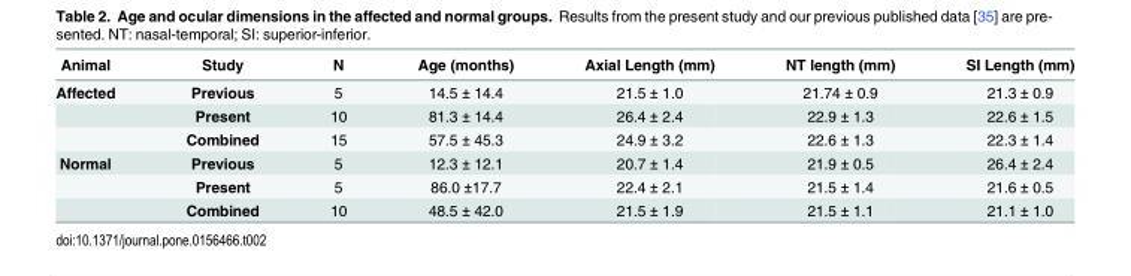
<table><thead><tr><td>Animal</td><td>Study</td><td>N</td><td>Age (months)</td><td>Axial Length (mm)</td><td>NT length (mm)</td><td>SI Length (mm)</td></tr></thead><tbody><tr><td rowspan="3">Affected</td><td>Previous</td><td>5</td><td>14.5 ± 14.4</td><td>21.5 ± 1.0</td><td>21.74 ± 0.9</td><td>21.3 ± 0.9</td></tr><tr><td>Present</td><td>10</td><td>81.3 ± 14.4</td><td>26.4 ± 2.4</td><td>22.9 ± 1.3</td><td>22.6 ± 1.5</td></tr><tr><td>Combined</td><td>15</td><td>57.5 ± 45.3</td><td>24.9 ± 3.2</td><td>22.6 ± 1.3</td><td>22.3 ± 1.4</td></tr><tr><td rowspan="3">Normal</td><td>Previous</td><td>5</td><td>12.3 ± 12.1</td><td>20.7 ± 1.4</td><td>21.9 ± 0.5</td><td>26.4 ± 2.4</td></tr><tr><td>Present</td><td>5</td><td>86.0 ±17.7</td><td>22.4 ± 2.1</td><td>21.5 ± 1.4</td><td>21.6 ± 0.5</td></tr><tr><td>Combined</td><td>10</td><td>48.5 ± 42.0</td><td>21.5 ± 1.9</td><td>21.5 ± 1.1</td><td>21.1 ± 1.0</td></tr></tbody></table>